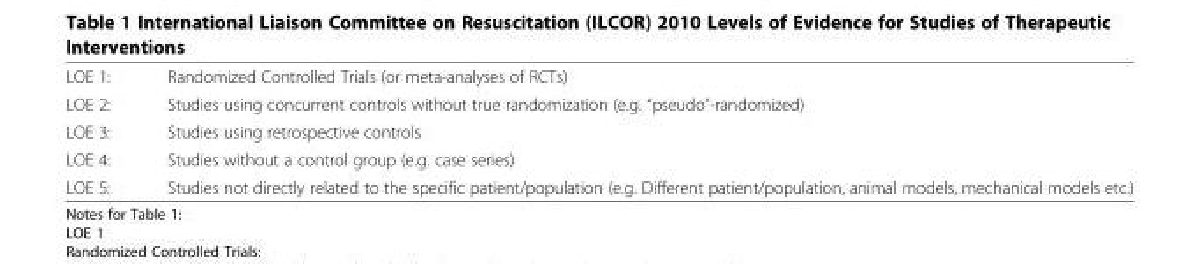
<table><tbody><tr><td>LOE 1:</td><td>Randomized Controlled Trials (or meta-analyses of RCTs)</td></tr><tr><td>LOE 2:</td><td>Studies using concurrent controls without true randomization (e.g. “pseudo”-randomized)</td></tr><tr><td>LOE 3:</td><td>Studies using retrospective controls</td></tr><tr><td>LOE 4:</td><td>Studies without a control group (e.g. case series)</td></tr><tr><td>LOE 5:</td><td>Studies not directly related to the specific patient/population (e.g. Different patient/population, animal models, mechanical models etc.)</td></tr></tbody></table>